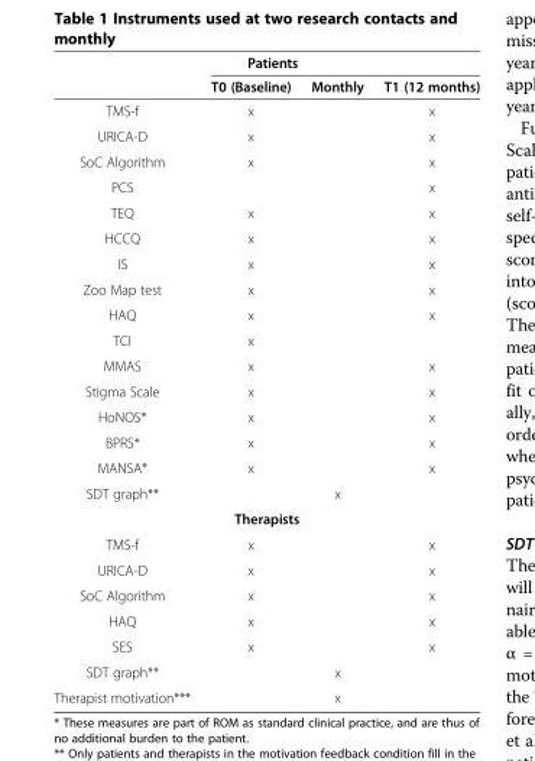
<table><thead><tr><td rowspan="2"></td><td rowspan="2">Patients T0 (Baseline)</td><td rowspan="2">Monthly</td><td rowspan="2">T1 (12 months)</td></tr><tr></tr></thead><tbody><tr><td>TMS-f</td><td>x</td><td></td><td>x</td></tr><tr><td>URICA-D</td><td>x</td><td></td><td>x</td></tr><tr><td>SoC Algorithm</td><td>x</td><td></td><td>x</td></tr><tr><td>PCS</td><td></td><td></td><td>x</td></tr><tr><td>TEQ</td><td>x</td><td></td><td>x</td></tr><tr><td>HCCQ</td><td>x</td><td></td><td>x</td></tr><tr><td>IS</td><td>x</td><td></td><td>x</td></tr><tr><td>Zoo Map test</td><td>x</td><td></td><td>x</td></tr><tr><td>HAQ</td><td>x</td><td></td><td>x</td></tr><tr><td>TCI</td><td>x</td><td></td><td></td></tr><tr><td>MMAS</td><td>x</td><td></td><td>x</td></tr><tr><td>Stigma Scale</td><td>x</td><td></td><td>x</td></tr><tr><td>HoNOS*</td><td>x</td><td></td><td>x</td></tr><tr><td>BPRS*</td><td>x</td><td></td><td>x</td></tr><tr><td>MANSA*</td><td>x</td><td></td><td>x</td></tr><tr><td rowspan="2">SDT graph**</td><td></td><td>x</td><td></td></tr><tr><td>Therapists</td><td></td><td></td></tr><tr><td>TMS-f</td><td>x</td><td></td><td>x</td></tr><tr><td>URICA-D</td><td>x</td><td></td><td>x</td></tr><tr><td>SoC Algorithm</td><td>x</td><td></td><td>x</td></tr><tr><td>HAQ</td><td>x</td><td></td><td>x</td></tr><tr><td>SES</td><td>x</td><td></td><td>x</td></tr><tr><td>SDT graph**</td><td></td><td>x</td><td></td></tr><tr><td>Therapist motivation***</td><td></td><td>x</td><td></td></tr></tbody></table>